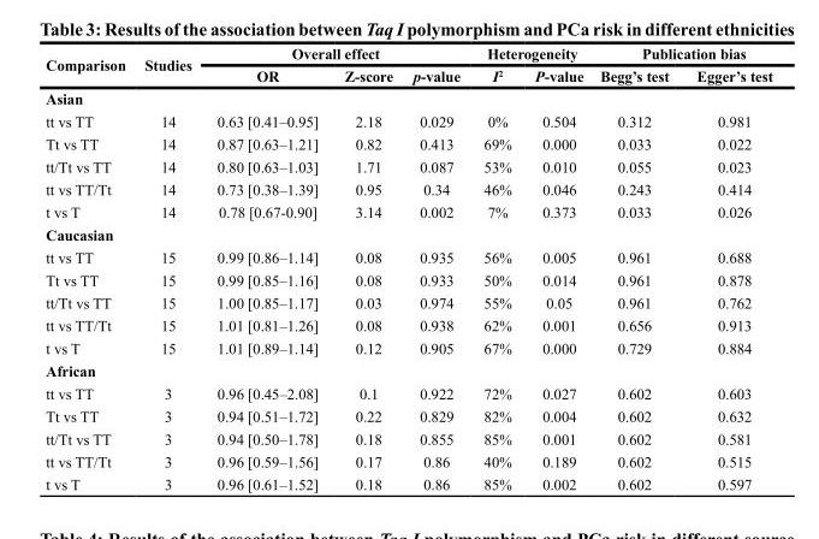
<table><thead><tr><td rowspan="2">Comparison</td><td rowspan="2">Studies</td><td colspan="3">Overall effect</td><td colspan="2">Heterogeneity</td><td colspan="2">Publication bias</td></tr><tr><td>OR</td><td>Z-score</td><td>p-value</td><td>I<sup>2</sup></td><td>P-value</td><td>Begg’s test</td><td>Egger’s test</td></tr></thead><tbody><tr><td colspan="9">Asian</td></tr><tr><td>tt vs TT</td><td>14</td><td>0.63 [0.41–0.95]</td><td>2.18</td><td>0.029</td><td>0%</td><td>0.504</td><td>0.312</td><td>0.981</td></tr><tr><td>Tt vs TT</td><td>14</td><td>0.87 [0.63–1.21]</td><td>0.82</td><td>0.413</td><td>69%</td><td>0.000</td><td>0.033</td><td>0.022</td></tr><tr><td>tt/Tt vs TT</td><td>14</td><td>0.80 [0.63–1.03]</td><td>1.71</td><td>0.087</td><td>53%</td><td>0.010</td><td>0.055</td><td>0.023</td></tr><tr><td>tt vs TT/Tt</td><td>14</td><td>0.73 [0.38–1.39]</td><td>0.95</td><td>0.34</td><td>46%</td><td>0.046</td><td>0.243</td><td>0.414</td></tr><tr><td>t vs T</td><td>14</td><td>0.78 [0.67-0.90]</td><td>3.14</td><td>0.002</td><td>7%</td><td>0.373</td><td>0.033</td><td>0.026</td></tr><tr><td colspan="9">Caucasian</td></tr><tr><td>tt vs TT</td><td>15</td><td>0.99 [0.86–1.14]</td><td>0.08</td><td>0.935</td><td>56%</td><td>0.005</td><td>0.961</td><td>0.688</td></tr><tr><td>Tt vs TT</td><td>15</td><td>0.99 [0.85–1.16]</td><td>0.08</td><td>0.933</td><td>50%</td><td>0.014</td><td>0.961</td><td>0.878</td></tr><tr><td>tt/Tt vs TT</td><td>15</td><td>1.00 [0.85–1.17]</td><td>0.03</td><td>0.974</td><td>55%</td><td>0.05</td><td>0.961</td><td>0.762</td></tr><tr><td>tt vs TT/Tt</td><td>15</td><td>1.01 [0.81–1.26]</td><td>0.08</td><td>0.938</td><td>62%</td><td>0.001</td><td>0.656</td><td>0.913</td></tr><tr><td>t vs T</td><td>15</td><td>1.01 [0.89–1.14]</td><td>0.12</td><td>0.905</td><td>67%</td><td>0.000</td><td>0.729</td><td>0.884</td></tr><tr><td colspan="9">African</td></tr><tr><td>tt vs TT</td><td>3</td><td>0.96 [0.45–2.08]</td><td>0.1</td><td>0.922</td><td>72%</td><td>0.027</td><td>0.602</td><td>0.603</td></tr><tr><td>Tt vs TT</td><td>3</td><td>0.94 [0.51–1.72]</td><td>0.22</td><td>0.829</td><td>82%</td><td>0.004</td><td>0.602</td><td>0.632</td></tr><tr><td>tt/Tt vs TT</td><td>3</td><td>0.94 [0.50–1.78]</td><td>0.18</td><td>0.855</td><td>85%</td><td>0.001</td><td>0.602</td><td>0.581</td></tr><tr><td>tt vs TT/Tt</td><td>3</td><td>0.96 [0.59–1.56]</td><td>0.17</td><td>0.86</td><td>40%</td><td>0.189</td><td>0.602</td><td>0.515</td></tr><tr><td>t vs T</td><td>3</td><td>0.96 [0.61–1.52]</td><td>0.18</td><td>0.86</td><td>85%</td><td>0.002</td><td>0.602</td><td>0.597</td></tr></tbody></table>